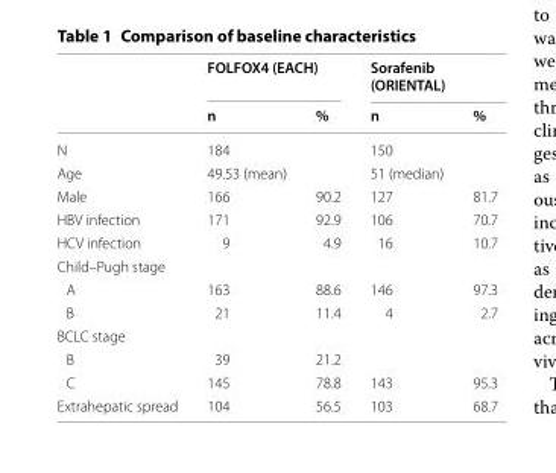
<table><thead><tr><td rowspan="2"></td><td colspan="2">FOLFOX4 (EACH)</td><td colspan="2">Sorafenib (ORIENTAL)</td></tr><tr><td>n</td><td>%</td><td>n</td><td>%</td></tr></thead><tbody><tr><td>N</td><td>184</td><td></td><td>150</td><td></td></tr><tr><td>Age</td><td colspan="2">49.53 (mean)</td><td colspan="2">51 (median)</td></tr><tr><td>Male</td><td>166</td><td>90.2</td><td>127</td><td>81.7</td></tr><tr><td>HBV infection</td><td>171</td><td>92.9</td><td>106</td><td>70.7</td></tr><tr><td>HCV infection</td><td>9</td><td>4.9</td><td>16</td><td>10.7</td></tr><tr><td colspan="5">Child–Pugh stage</td></tr><tr><td>A</td><td>163</td><td>88.6</td><td>146</td><td>97.3</td></tr><tr><td>B</td><td>21</td><td>11.4</td><td>4</td><td>2.7</td></tr><tr><td colspan="5">BCLC stage</td></tr><tr><td>B</td><td>39</td><td>21.2</td><td></td><td></td></tr><tr><td>C</td><td>145</td><td>78.8</td><td>143</td><td>95.3</td></tr><tr><td>Extrahepatic spread</td><td>104</td><td>56.5</td><td>103</td><td>68.7</td></tr></tbody></table>